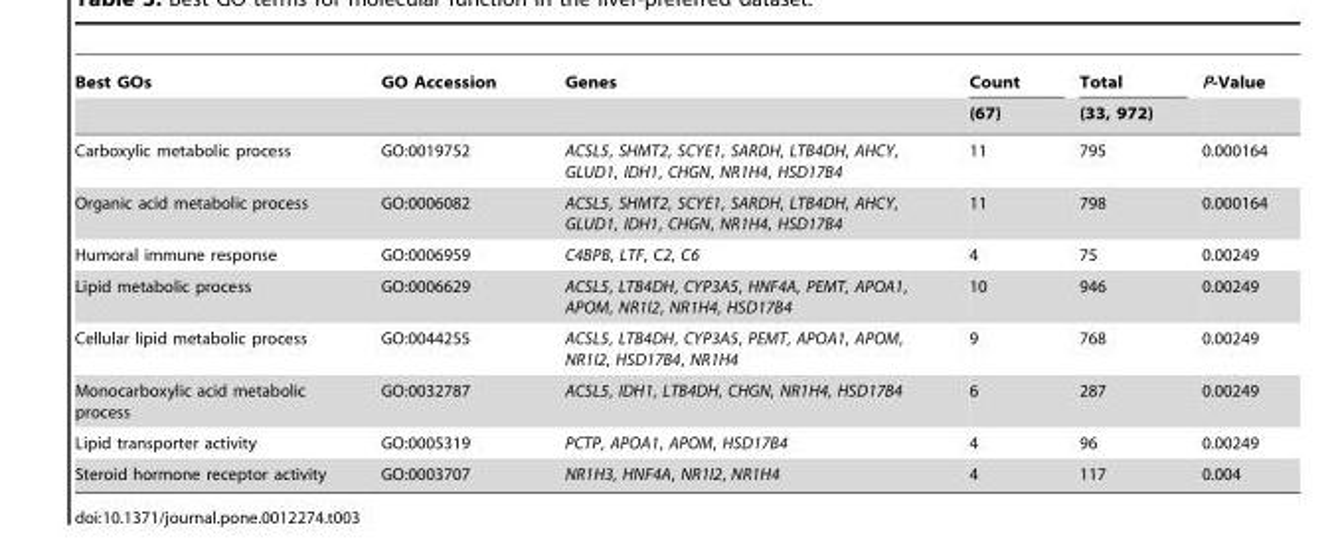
<table><thead><tr><td rowspan="2">Best GOs</td><td rowspan="2">GO Accession</td><td rowspan="2">Genes</td><td rowspan="2">Count (67)</td><td rowspan="2">Total (33, 972)</td><td rowspan="2">P-Value</td></tr><tr></tr></thead><tbody><tr><td>Carboxylic metabolic process</td><td>GO:0019752</td><td>ACSL5, SHMT2, SCYE1, SARDH, LTB4DH, AHCY, GLUD1, IDH1, CHGN, NR1H4, HSD17B4</td><td>11</td><td>795</td><td>0.000164</td></tr><tr><td>Organic acid metabolic process</td><td>GO:0006082</td><td>ACSL5, SHMT2, SCYE1, SARDH, LTB4DH, AHCY, GLUD1, IDH1, CHGN, NR1H4, HSD17B4</td><td>11</td><td>798</td><td>0.000164</td></tr><tr><td>Humoral immune response</td><td>GO:0006959</td><td>C4BPB, LTF, C2, C6</td><td>4</td><td>75</td><td>0.00249</td></tr><tr><td>Lipid metabolic process</td><td>GO:0006629</td><td>ACSL5, LTB4DH, CYP3A5, HNF4A, PEMT, APOA1, APOM, NR1I2, NR1H4, HSD17B4</td><td>10</td><td>946</td><td>0.00249</td></tr><tr><td>Cellular lipid metabolic process</td><td>GO:0044255</td><td>ACSL5, LTB4DH, CYP3A5, PEMT, APOA1, APOM, NR1I2, HSD17B4, NR1H4</td><td>9</td><td>768</td><td>0.00249</td></tr><tr><td>Monocarboxylic acid metabolic process</td><td>GO:0032787</td><td>ACSL5, IDH1, LTB4DH, CHGN, NR1H4, HSD17B4</td><td>6</td><td>287</td><td>0.00249</td></tr><tr><td>Lipid transporter activity</td><td>GO:0005319</td><td>PCTP, APOA1, APOM, HSD17B4</td><td>4</td><td>96</td><td>0.00249</td></tr><tr><td>Steroid hormone receptor activity</td><td>GO:0003707</td><td>NR1H3, HNF4A, NR1I2, NR1H4</td><td>4</td><td>117</td><td>0.004</td></tr></tbody></table>